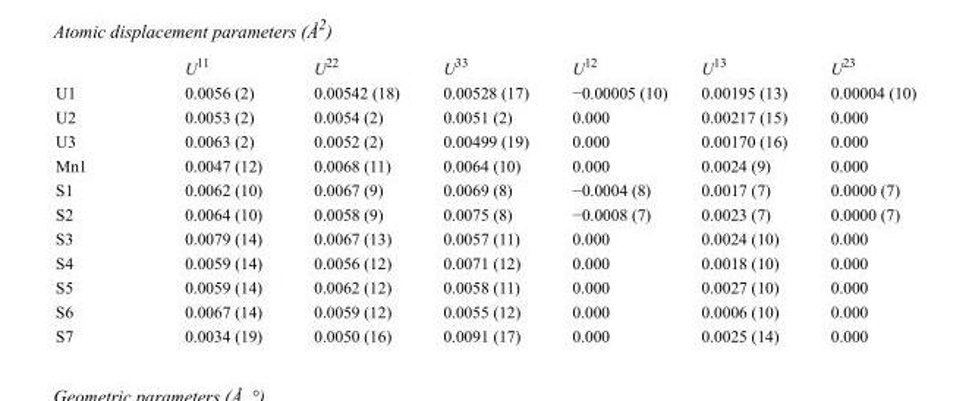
<table><thead><tr><td></td><td>U<sup>11</sup></td><td>U<sup>22</sup></td><td>U<sup>33</sup></td><td>U<sup>12</sup></td><td>U<sup>13</sup></td><td>U<sup>23</sup></td></tr></thead><tbody><tr><td>U1</td><td>0.0056 (2)</td><td>0.00542 (18)</td><td>0.00528 (17)</td><td>−0.00005 (10)</td><td>0.00195 (13)</td><td>0.00004 (10)</td></tr><tr><td>U2</td><td>0.0053 (2)</td><td>0.0054 (2)</td><td>0.0051 (2)</td><td>0.000</td><td>0.00217 (15)</td><td>0.000</td></tr><tr><td>U3</td><td>0.0063 (2)</td><td>0.0052 (2)</td><td>0.00499 (19)</td><td>0.000</td><td>0.00170 (16)</td><td>0.000</td></tr><tr><td>Mn1</td><td>0.0047 (12)</td><td>0.0068 (11)</td><td>0.0064 (10)</td><td>0.000</td><td>0.0024 (9)</td><td>0.000</td></tr><tr><td>S1</td><td>0.0062 (10)</td><td>0.0067 (9)</td><td>0.0069 (8)</td><td>−0.0004 (8)</td><td>0.0017 (7)</td><td>0.0000 (7)</td></tr><tr><td>S2</td><td>0.0064 (10)</td><td>0.0058 (9)</td><td>0.0075 (8)</td><td>−0.0008 (7)</td><td>0.0023 (7)</td><td>0.0000 (7)</td></tr><tr><td>S3</td><td>0.0079 (14)</td><td>0.0067 (13)</td><td>0.0057 (11)</td><td>0.000</td><td>0.0024 (10)</td><td>0.000</td></tr><tr><td>S4</td><td>0.0059 (14)</td><td>0.0056 (12)</td><td>0.0071 (12)</td><td>0.000</td><td>0.0018 (10)</td><td>0.000</td></tr><tr><td>S5</td><td>0.0059 (14)</td><td>0.0062 (12)</td><td>0.0058 (11)</td><td>0.000</td><td>0.0027 (10)</td><td>0.000</td></tr><tr><td>S6</td><td>0.0067 (14)</td><td>0.0059 (12)</td><td>0.0055 (12)</td><td>0.000</td><td>0.0006 (10)</td><td>0.000</td></tr><tr><td>S7</td><td>0.0034 (19)</td><td>0.0050 (16)</td><td>0.0091 (17)</td><td>0.000</td><td>0.0025 (14)</td><td>0.000</td></tr></tbody></table>